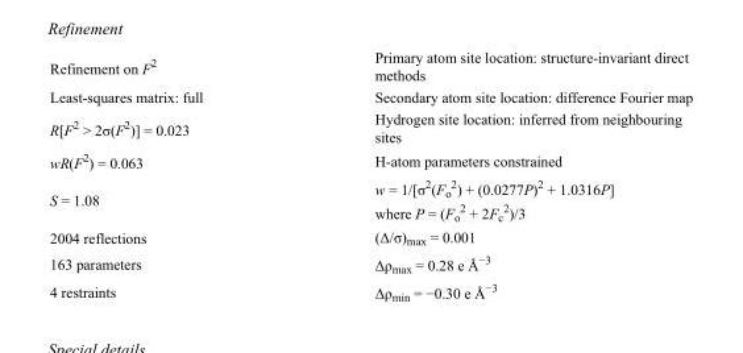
<table><tbody><tr><td>Refinement on F<sup>2</sup></td><td>Primary atom site location: structure-invariant direct methods</td></tr><tr><td>Least-squares matrix: full</td><td>Secondary atom site location: difference Fourier map</td></tr><tr><td>R[F<sup>2</sup> &gt; 2σ(F<sup>2</sup>)] = 0.023</td><td>Hydrogen site location: inferred from neighbouring sites</td></tr><tr><td>wR(F<sup>2</sup>) = 0.063</td><td>H-atom parameters constrained</td></tr><tr><td>S = 1.08</td><td>w = 1/[σ<sup>2</sup>(F<sub>o</sub> <sup>2</sup>) + (0.0277P)<sup>2</sup> + 1.0316P] where P = (F<sub>o</sub> <sup>2</sup> + 2F<sub>c</sub> <sup>2</sup>)/3</td></tr><tr><td>2004 reflections</td><td>(Δ/σ)<sub>max</sub> = 0.001</td></tr><tr><td>163 parameters</td><td>Δρ<sub>max</sub> = 0.28 e Å<sup>−3</sup></td></tr><tr><td>4 restraints</td><td>Δρ<sub>min</sub> = −0.30 e Å<sup>−3</sup></td></tr></tbody></table>